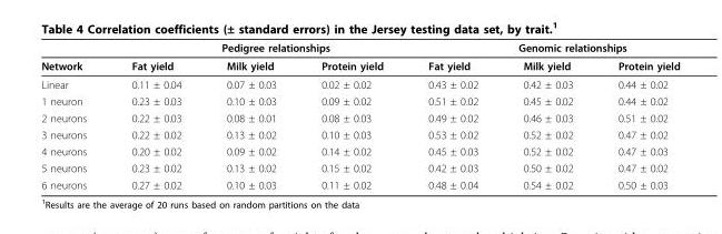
<table><thead><tr><td rowspan="2">Network</td><td colspan="3">Pedigree relationships</td><td colspan="3">Genomic relationships</td></tr><tr><td>Fat yield</td><td>Milk yield</td><td>Protein yield</td><td>Fat yield</td><td>Milk yield</td><td>Protein yield</td></tr></thead><tbody><tr><td>Linear</td><td>0.11 ± 0.04</td><td>0.07 ± 0.03</td><td>0.02 ± 0.02</td><td>0.43 ± 0.02</td><td>0.42 ± 0.03</td><td>0.44 ± 0.02</td></tr><tr><td>1 neuron</td><td>0.23 ± 0.03</td><td>0.10 ± 0.03</td><td>0.09 ± 0.02</td><td>0.51 ± 0.02</td><td>0.45 ± 0.02</td><td>0.44 ± 0.02</td></tr><tr><td>2 neurons</td><td>0.22 ± 0.03</td><td>0.08 ± 0.01</td><td>0.08 ± 0.03</td><td>0.49 ± 0.02</td><td>0.46 ± 0.03</td><td>0.51 ± 0.02</td></tr><tr><td>3 neurons</td><td>0.22 ± 0.02</td><td>0.13 ± 0.02</td><td>0.10 ± 0.03</td><td>0.53 ± 0.02</td><td>0.52 ± 0.02</td><td>0.47 ± 0.02</td></tr><tr><td>4 neurons</td><td>0.20 ± 0.02</td><td>0.09 ± 0.02</td><td>0.14 ± 0.02</td><td>0.45 ± 0.03</td><td>0.52 ± 0.02</td><td>0.47 ± 0.03</td></tr><tr><td>5 neurons</td><td>0.23 ± 0.02</td><td>0.13 ± 0.02</td><td>0.15 ± 0.02</td><td>0.42 ± 0.03</td><td>0.50 ± 0.02</td><td>0.47 ± 0.02</td></tr><tr><td>6 neurons</td><td>0.27 ± 0.02</td><td>0.10 ± 0.03</td><td>0.11 ± 0.02</td><td>0.48 ± 0.04</td><td>0.54 ± 0.02</td><td>0.50 ± 0.03</td></tr></tbody></table>